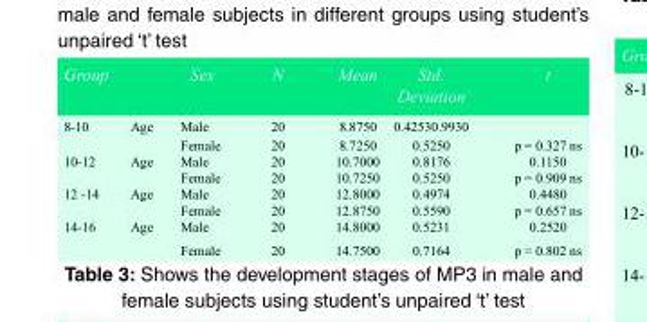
<table><tbody><tr><td>Group</td><td></td><td>Sex</td><td>N</td><td>Mean</td><td>Std. Deviation</td><td>t</td></tr><tr><td rowspan="2">8-10</td><td>Age</td><td>Male</td><td>20</td><td>8.8750</td><td>0.42530.9930</td><td></td></tr><tr><td></td><td>Female</td><td>20</td><td>8.7250</td><td>0.5250</td><td>p = 0.327 ns</td></tr><tr><td rowspan="2">10-12</td><td>Age</td><td>Male</td><td>20</td><td>10.7000</td><td>0.8176</td><td>0.1150</td></tr><tr><td></td><td>Female</td><td>20</td><td>10.7250</td><td>0.5250</td><td>p = 0.909 ns</td></tr><tr><td rowspan="2">12 -14</td><td>Age</td><td>Male</td><td>20</td><td>12.8000</td><td>0.4974</td><td>0.4480</td></tr><tr><td></td><td>Female</td><td>20</td><td>12.8750</td><td>0.5590</td><td>p = 0.657 ns</td></tr><tr><td rowspan="2">14-16</td><td>Age</td><td>Male</td><td>20</td><td>14.8000</td><td>0.5231</td><td>0.2520</td></tr><tr><td></td><td>Female</td><td>20</td><td>14.7500</td><td>0.7164</td><td>p = 0.802 ns</td></tr></tbody></table>